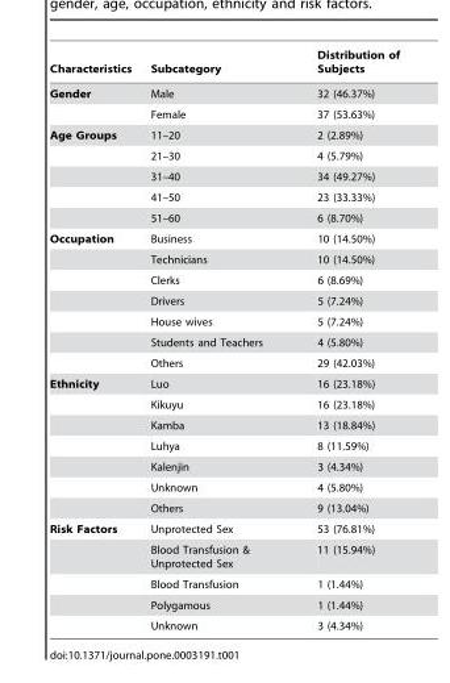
<table><thead><tr><td>Characteristics</td><td>Subcategory</td><td>Distribution of Subjects</td></tr></thead><tbody><tr><td rowspan="2">Gender</td><td>Male</td><td>32 (46.37%)</td></tr><tr><td>Female</td><td>37 (53.63%)</td></tr><tr><td rowspan="5">Age Groups</td><td>11–20</td><td>2 (2.89%)</td></tr><tr><td>21–30</td><td>4 (5.79%)</td></tr><tr><td>31–40</td><td>34 (49.27%)</td></tr><tr><td>41–50</td><td>23 (33.33%)</td></tr><tr><td>51–60</td><td>6 (8.70%)</td></tr><tr><td rowspan="7">Occupation</td><td>Business</td><td>10 (14.50%)</td></tr><tr><td>Technicians</td><td>10 (14.50%)</td></tr><tr><td>Clerks</td><td>6 (8.69%)</td></tr><tr><td>Drivers</td><td>5 (7.24%)</td></tr><tr><td>House wives</td><td>5 (7.24%)</td></tr><tr><td>Students and Teachers</td><td>4 (5.80%)</td></tr><tr><td>Others</td><td>29 (42.03%)</td></tr><tr><td rowspan="7">Ethnicity</td><td>Luo</td><td>16 (23.18%)</td></tr><tr><td>Kikuyu</td><td>16 (23.18%)</td></tr><tr><td>Kamba</td><td>13 (18.84%)</td></tr><tr><td>Luhya</td><td>8 (11.59%)</td></tr><tr><td>Kalenjin</td><td>3 (4.34%)</td></tr><tr><td>Unknown</td><td>4 (5.80%)</td></tr><tr><td>Others</td><td>9 (13.04%)</td></tr><tr><td rowspan="5">Risk Factors</td><td>Unprotected Sex</td><td>53 (76.81%)</td></tr><tr><td>Blood Transfusion &amp; Unprotected Sex</td><td>11 (15.94%)</td></tr><tr><td>Blood Transfusion</td><td>1 (1.44%)</td></tr><tr><td>Polygamous</td><td>1 (1.44%)</td></tr><tr><td>Unknown</td><td>3 (4.34%)</td></tr></tbody></table>